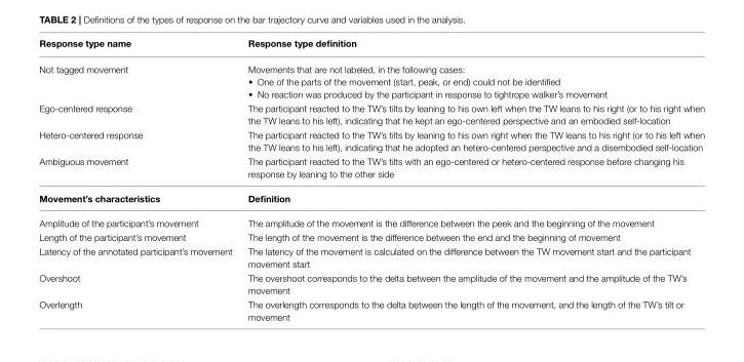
<table><thead><tr><td>Response type name</td><td>Response type definition</td></tr></thead><tbody><tr><td>Not tagged movement</td><td>Movements that are not labeled, in the following cases: • One of the parts of the movement (start, peak, or end) could not be identified • No reaction was produced by the participant in response to tightrope walker’s movement</td></tr><tr><td>Ego-centered response</td><td>The participant reacted to the TW’s tilts by leaning to his own left when the TW leans to his right (or to his right when the TW leans to his left), indicating that he kept an ego-centered perspective and an embodied self-location</td></tr><tr><td>Hetero-centered response</td><td>The participant reacted to the TW’s tilts by leaning to his own right when the TW leans to his right (or to his left when the TW leans to his left), indicating that he adopted an hetero-centered perspective and a disembodied self-location</td></tr><tr><td>Ambiguous movement</td><td>The participant reacted to the TW’s tilts with an ego-centered or hetero-centered response before changing his response by leaning to the other side</td></tr><tr><td>Movement’s characteristics</td><td>Definition</td></tr><tr><td>Amplitude of the participant’s movement</td><td>The amplitude of the movement is the difference between the peek and the beginning of the movement</td></tr><tr><td>Length of the participant’s movement</td><td>The length of the movement is the difference between the end and the beginning of movement</td></tr><tr><td>Latency of the annotated participant’s movement</td><td>The latency of the movement is calculated on the difference between the TW movement start and the participant movement start</td></tr><tr><td>Overshoot</td><td>The overshoot corresponds to the delta between the amplitude of the movement and the amplitude of the TW’s movement</td></tr><tr><td>Overlength</td><td>The overlength corresponds to the delta between the length of the movement, and the length of the TW’s tilt or movement</td></tr></tbody></table>